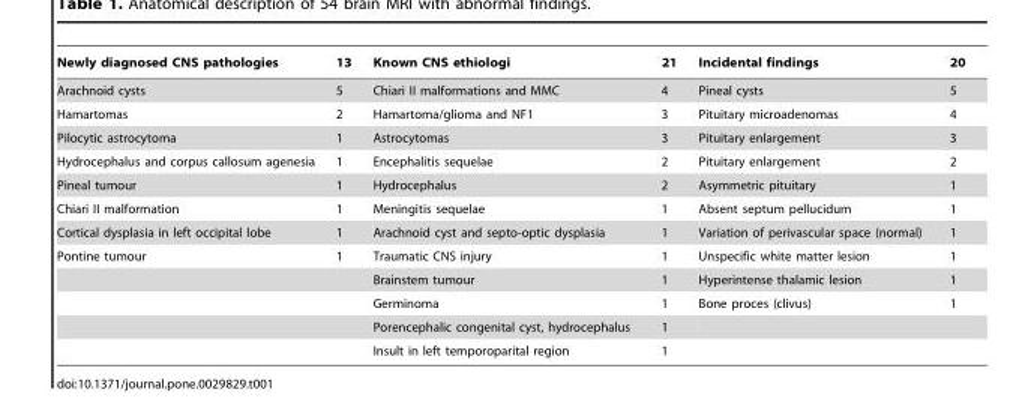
<table><thead><tr><td>Newly diagnosed CNS pathologies</td><td>13</td><td>Known CNS ethiologi</td><td>21</td><td>Incidental findings</td><td>20</td></tr></thead><tbody><tr><td>Arachnoid cysts</td><td>5</td><td>Chiari II malformations and MMC</td><td>4</td><td>Pineal cysts</td><td>5</td></tr><tr><td>Hamartomas</td><td>2</td><td>Hamartoma/glioma and NF1</td><td>3</td><td>Pituitary microadenomas</td><td>4</td></tr><tr><td>Pilocytic astrocytoma</td><td>1</td><td>Astrocytomas</td><td>3</td><td>Pituitary enlargement</td><td>3</td></tr><tr><td>Hydrocephalus and corpus callosum agenesia</td><td>1</td><td>Encephalitis sequelae</td><td>2</td><td>Pituitary enlargement</td><td>2</td></tr><tr><td>Pineal tumour</td><td>1</td><td>Hydrocephalus</td><td>2</td><td>Asymmetric pituitary</td><td>1</td></tr><tr><td>Chiari II malformation</td><td>1</td><td>Meningitis sequelae</td><td>1</td><td>Absent septum pellucidum</td><td>1</td></tr><tr><td>Cortical dysplasia in left occipital lobe</td><td>1</td><td>Arachnoid cyst and septo-optic dysplasia</td><td>1</td><td>Variation of perivascular space (normal)</td><td>1</td></tr><tr><td rowspan="5">Pontine tumour</td><td>1</td><td>Traumatic CNS injury</td><td>1</td><td>Unspecific white matter lesion</td><td>1</td></tr><tr><td></td><td>Brainstem tumour</td><td>1</td><td>Hyperintense thalamic lesion</td><td>1</td></tr><tr><td></td><td>Germinoma</td><td>1</td><td>Bone proces (clivus)</td><td>1</td></tr><tr><td></td><td>Porencephalic congenital cyst, hydrocephalus</td><td>1</td><td></td><td></td></tr><tr><td></td><td>Insult in left temporoparital region</td><td>1</td><td></td><td></td></tr></tbody></table>